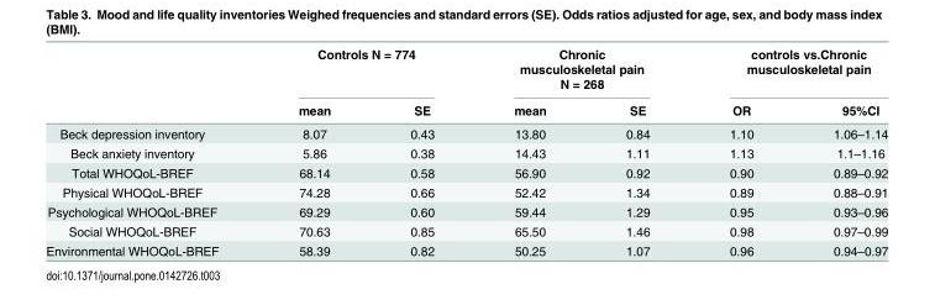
<table><thead><tr><td rowspan="2"></td><td colspan="2">Controls N = 774</td><td colspan="2">Chronic musculoskeletal pain N = 268</td><td colspan="2">controls vs.Chronic musculoskeletal pain</td></tr><tr><td>mean</td><td>SE</td><td>mean</td><td>SE</td><td>OR</td><td>95%CI</td></tr></thead><tbody><tr><td>Beck depression inventory</td><td>8.07</td><td>0.43</td><td>13.80</td><td>0.84</td><td>1.10</td><td>1.06–1.14</td></tr><tr><td>Beck anxiety inventory</td><td>5.86</td><td>0.38</td><td>14.43</td><td>1.11</td><td>1.13</td><td>1.1–1.16</td></tr><tr><td>Total WHOQoL-BREF</td><td>68.14</td><td>0.58</td><td>56.90</td><td>0.92</td><td>0.90</td><td>0.89–0.92</td></tr><tr><td>Physical WHOQoL-BREF</td><td>74.28</td><td>0.66</td><td>52.42</td><td>1.34</td><td>0.89</td><td>0.88–0.91</td></tr><tr><td>Psychological WHOQoL-BREF</td><td>69.29</td><td>0.60</td><td>59.44</td><td>1.29</td><td>0.95</td><td>0.93–0.96</td></tr><tr><td>Social WHOQoL-BREF</td><td>70.63</td><td>0.85</td><td>65.50</td><td>1.46</td><td>0.98</td><td>0.97–0.99</td></tr><tr><td>Environmental WHOQoL-BREF</td><td>58.39</td><td>0.82</td><td>50.25</td><td>1.07</td><td>0.96</td><td>0.94–0.97</td></tr></tbody></table>